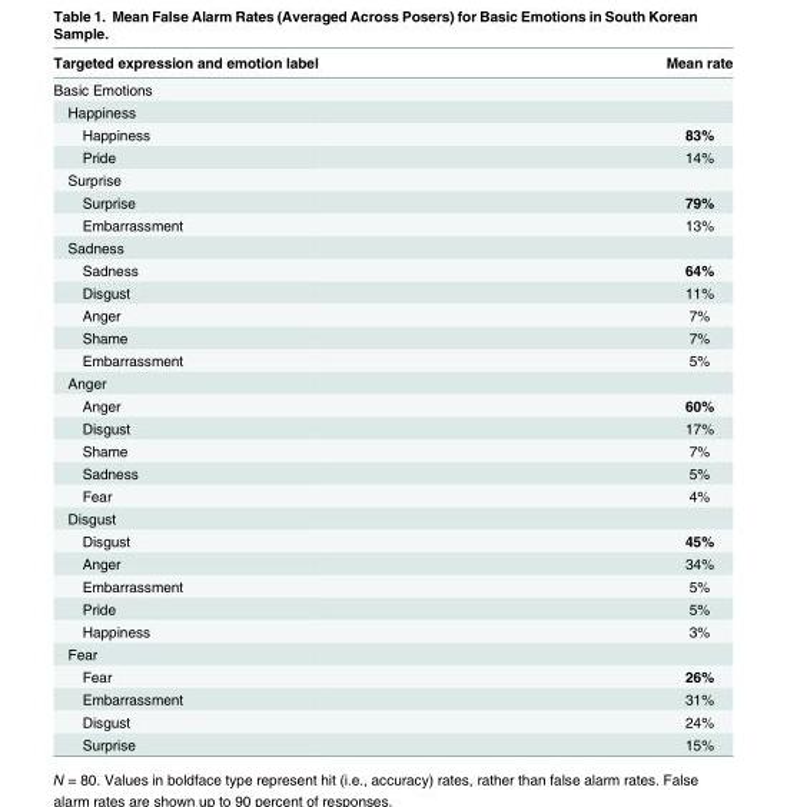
<table><thead><tr><td>Targeted expression and emotion label</td><td>Mean rate</td></tr></thead><tbody><tr><td colspan="2">Basic Emotions</td></tr><tr><td colspan="2">Happiness</td></tr><tr><td>Happiness</td><td>83%</td></tr><tr><td>Pride</td><td>14%</td></tr><tr><td colspan="2">Surprise</td></tr><tr><td>Surprise</td><td>79%</td></tr><tr><td>Embarrassment</td><td>13%</td></tr><tr><td colspan="2">Sadness</td></tr><tr><td>Sadness</td><td>64%</td></tr><tr><td>Disgust</td><td>11%</td></tr><tr><td>Anger</td><td>7%</td></tr><tr><td>Shame</td><td>7%</td></tr><tr><td>Embarrassment</td><td>5%</td></tr><tr><td colspan="2">Anger</td></tr><tr><td>Anger</td><td>60%</td></tr><tr><td>Disgust</td><td>17%</td></tr><tr><td>Shame</td><td>7%</td></tr><tr><td>Sadness</td><td>5%</td></tr><tr><td>Fear</td><td>4%</td></tr><tr><td colspan="2">Disgust</td></tr><tr><td>Disgust</td><td>45%</td></tr><tr><td>Anger</td><td>34%</td></tr><tr><td>Embarrassment</td><td>5%</td></tr><tr><td>Pride</td><td>5%</td></tr><tr><td>Happiness</td><td>3%</td></tr><tr><td colspan="2">Fear</td></tr><tr><td>Fear</td><td>26%</td></tr><tr><td>Embarrassment</td><td>31%</td></tr><tr><td>Disgust</td><td>24%</td></tr><tr><td>Surprise</td><td>15%</td></tr></tbody></table>